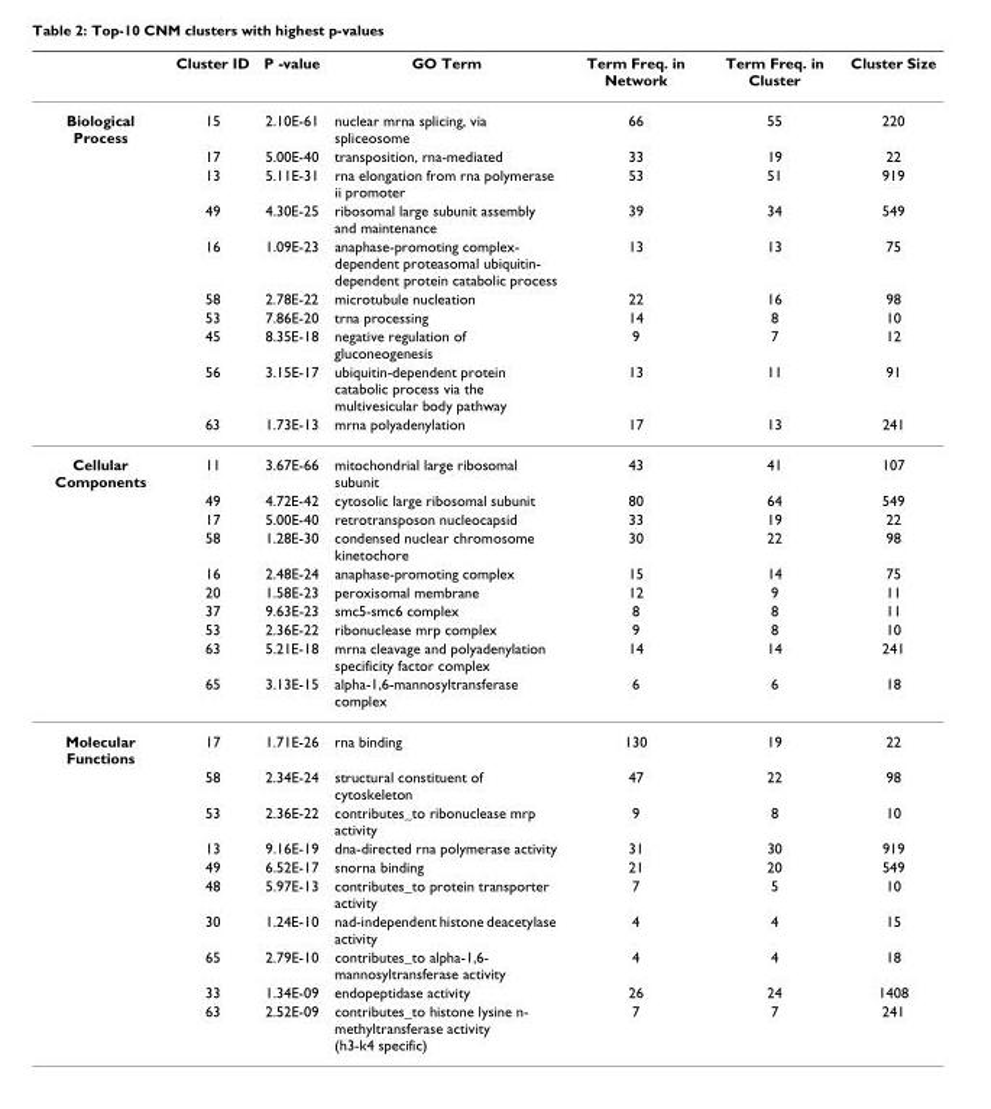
<table><thead><tr><td></td><td>Cluster ID</td><td>P -value</td><td>GO Term</td><td>Term Freq. in Network</td><td>Term Freq. in Cluster</td><td>Cluster Size</td></tr></thead><tbody><tr><td rowspan="10">Biological Process</td><td>15</td><td>2.10E-61</td><td>nuclear mrna splicing, via spliceosome</td><td>66</td><td>55</td><td>220</td></tr><tr><td>17</td><td>5.00E-40</td><td>transposition, rna-mediated</td><td>33</td><td>19</td><td>22</td></tr><tr><td>13</td><td>5.11E-31</td><td>rna elongation from rna polymerase ii promoter</td><td>53</td><td>51</td><td>919</td></tr><tr><td>49</td><td>4.30E-25</td><td>ribosomal large subunit assembly and maintenance</td><td>39</td><td>34</td><td>549</td></tr><tr><td>16</td><td>1.09E-23</td><td>anaphase-promoting complex- dependent proteasomal ubiquitin- dependent protein catabolic process</td><td>13</td><td>13</td><td>75</td></tr><tr><td>58</td><td>2.78E-22</td><td>microtubule nucleation</td><td>22</td><td>16</td><td>98</td></tr><tr><td>53</td><td>7.86E-20</td><td>trna processing</td><td>14</td><td>8</td><td>10</td></tr><tr><td>45</td><td>8.35E-18</td><td>negative regulation of gluconeogenesis</td><td>9</td><td>7</td><td>12</td></tr><tr><td>56</td><td>3.15E-17</td><td>ubiquitin-dependent protein catabolic process via the multivesicular body pathway</td><td>13</td><td>11</td><td>91</td></tr><tr><td>63</td><td>1.73E-13</td><td>mrna polyadenylation</td><td>17</td><td>13</td><td>241</td></tr><tr><td rowspan="10">Cellular Components</td><td>11</td><td>3.67E-66</td><td>mitochondrial large ribosomal subunit</td><td>43</td><td>41</td><td>107</td></tr><tr><td>49</td><td>4.72E-42</td><td>cytosolic large ribosomal subunit</td><td>80</td><td>64</td><td>549</td></tr><tr><td>17</td><td>5.00E-40</td><td>retrotransposon nucleocapsid</td><td>33</td><td>19</td><td>22</td></tr><tr><td>58</td><td>1.28E-30</td><td>condensed nuclear chromosome kinetochore</td><td>30</td><td>22</td><td>98</td></tr><tr><td>16</td><td>2.48E-24</td><td>anaphase-promoting complex</td><td>15</td><td>14</td><td>75</td></tr><tr><td>20</td><td>1.58E-23</td><td>peroxisomal membrane</td><td>12</td><td>9</td><td>11</td></tr><tr><td>37</td><td>9.63E-23</td><td>smc5-smc6 complex</td><td>8</td><td>8</td><td>11</td></tr><tr><td>53</td><td>2.36E-22</td><td>ribonuclease mrp complex</td><td>9</td><td>8</td><td>10</td></tr><tr><td>63</td><td>5.21E-18</td><td>mrna cleavage and polyadenylation specificity factor complex</td><td>14</td><td>14</td><td>241</td></tr><tr><td>65</td><td>3.13E-15</td><td>alpha-1,6-mannosyltransferase complex</td><td>6</td><td>6</td><td>18</td></tr><tr><td rowspan="10">Molecular Functions</td><td>17</td><td>1.71E-26</td><td>rna binding</td><td>130</td><td>19</td><td>22</td></tr><tr><td>58</td><td>2.34E-24</td><td>structural constituent of cytoskeleton</td><td>47</td><td>22</td><td>98</td></tr><tr><td>53</td><td>2.36E-22</td><td>contributes_to ribonuclease mrp activity</td><td>9</td><td>8</td><td>10</td></tr><tr><td>13</td><td>9.16E-19</td><td>dna-directed rna polymerase activity</td><td>31</td><td>30</td><td>919</td></tr><tr><td>49</td><td>6.52E-17</td><td>snorna binding</td><td>21</td><td>20</td><td>549</td></tr><tr><td>48</td><td>5.97E-13</td><td>contributes_to protein transporter activity</td><td>7</td><td>5</td><td>10</td></tr><tr><td>30</td><td>1.24E-10</td><td>nad-independent histone deacetylase activity</td><td>4</td><td>4</td><td>15</td></tr><tr><td>65</td><td>2.79E-10</td><td>contributes_to alpha-1,6- mannosyltransferase activity</td><td>4</td><td>4</td><td>18</td></tr><tr><td>33</td><td>1.34E-09</td><td>endopeptidase activity</td><td>26</td><td>24</td><td>1408</td></tr><tr><td>63</td><td>2.52E-09</td><td>contributes_to histone lysine n- methyltransferase activity (h3-k4 specific)</td><td>7</td><td>7</td><td>241</td></tr></tbody></table>